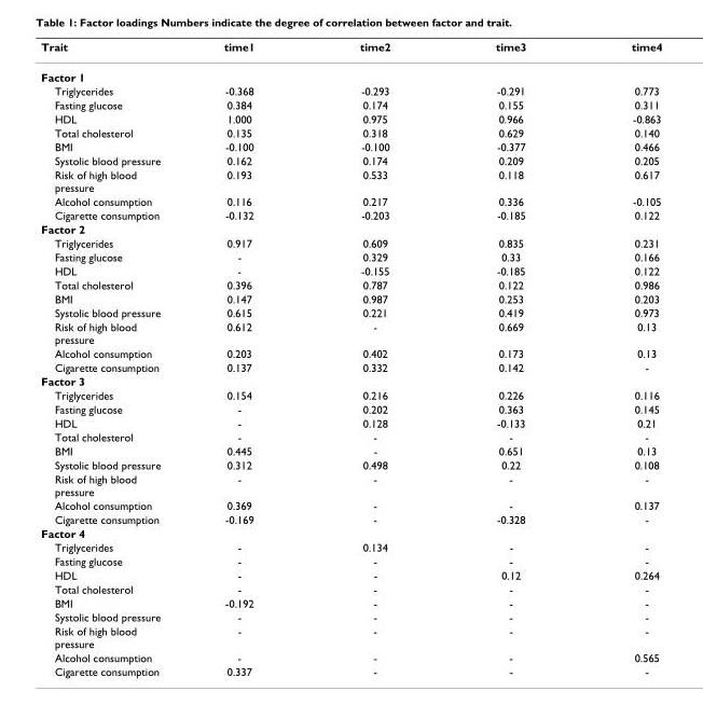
<table><thead><tr><td>Trait</td><td>time1</td><td>time2</td><td>time3</td><td>time4</td></tr></thead><tbody><tr><td colspan="5">Factor 1</td></tr><tr><td>Triglycerides</td><td>-0.368</td><td>-0.293</td><td>-0.291</td><td>0.773</td></tr><tr><td>Fasting glucose</td><td>0.384</td><td>0.174</td><td>0.155</td><td>0.311</td></tr><tr><td>HDL</td><td>1.000</td><td>0.975</td><td>0.966</td><td>-0.863</td></tr><tr><td>Total cholesterol</td><td>0.135</td><td>0.318</td><td>0.629</td><td>0.140</td></tr><tr><td>BMI</td><td>-0.100</td><td>-0.100</td><td>-0.377</td><td>0.466</td></tr><tr><td>Systolic blood pressure</td><td>0.162</td><td>0.174</td><td>0.209</td><td>0.205</td></tr><tr><td>Risk of high blood pressure</td><td>0.193</td><td>0.533</td><td>0.118</td><td>0.617</td></tr><tr><td>Alcohol consumption</td><td>0.116</td><td>0.217</td><td>0.336</td><td>-0.105</td></tr><tr><td>Cigarette consumption</td><td>-0.132</td><td>-0.203</td><td>-0.185</td><td>0.122</td></tr><tr><td colspan="5">Factor 2</td></tr><tr><td>Triglycerides</td><td>0.917</td><td>0.609</td><td>0.835</td><td>0.231</td></tr><tr><td>Fasting glucose</td><td>-</td><td>0.329</td><td>0.33</td><td>0.166</td></tr><tr><td>HDL</td><td>-</td><td>-0.155</td><td>-0.185</td><td>0.122</td></tr><tr><td>Total cholesterol</td><td>0.396</td><td>0.787</td><td>0.122</td><td>0.986</td></tr><tr><td>BMI</td><td>0.147</td><td>0.987</td><td>0.253</td><td>0.203</td></tr><tr><td>Systolic blood pressure</td><td>0.615</td><td>0.221</td><td>0.419</td><td>0.973</td></tr><tr><td>Risk of high blood pressure</td><td>0.612</td><td>-</td><td>0.669</td><td>0.13</td></tr><tr><td>Alcohol consumption</td><td>0.203</td><td>0.402</td><td>0.173</td><td>0.13</td></tr><tr><td>Cigarette consumption</td><td>0.137</td><td>0.332</td><td>0.142</td><td>-</td></tr><tr><td colspan="5">Factor 3</td></tr><tr><td>Triglycerides</td><td>0.154</td><td>0.216</td><td>0.226</td><td>0.116</td></tr><tr><td>Fasting glucose</td><td>-</td><td>0.202</td><td>0.363</td><td>0.145</td></tr><tr><td>HDL</td><td>-</td><td>0.128</td><td>-0.133</td><td>0.21</td></tr><tr><td>Total cholesterol</td><td>-</td><td>-</td><td>-</td><td>-</td></tr><tr><td>BMI</td><td>0.445</td><td>-</td><td>0.651</td><td>0.13</td></tr><tr><td>Systolic blood pressure</td><td>0.312</td><td>0.498</td><td>0.22</td><td>0.108</td></tr><tr><td>Risk of high blood pressure</td><td>-</td><td>-</td><td>-</td><td>-</td></tr><tr><td>Alcohol consumption</td><td>0.369</td><td>-</td><td>-</td><td>0.137</td></tr><tr><td>Cigarette consumption</td><td>-0.169</td><td>-</td><td>-0.328</td><td>-</td></tr><tr><td colspan="5">Factor 4</td></tr><tr><td>Triglycerides</td><td>-</td><td>0.134</td><td>-</td><td>-</td></tr><tr><td>Fasting glucose</td><td>-</td><td>-</td><td>-</td><td>-</td></tr><tr><td>HDL</td><td>-</td><td>-</td><td>0.12</td><td>0.264</td></tr><tr><td>Total cholesterol</td><td>-</td><td>-</td><td>-</td><td>-</td></tr><tr><td>BMI</td><td>-0.192</td><td>-</td><td>-</td><td>-</td></tr><tr><td>Systolic blood pressure</td><td>-</td><td>-</td><td>-</td><td>-</td></tr><tr><td>Risk of high blood pressure</td><td>-</td><td>-</td><td>-</td><td>-</td></tr><tr><td>Alcohol consumption</td><td>-</td><td>-</td><td>-</td><td>0.565</td></tr><tr><td>Cigarette consumption</td><td>0.337</td><td>-</td><td>-</td><td>-</td></tr></tbody></table>